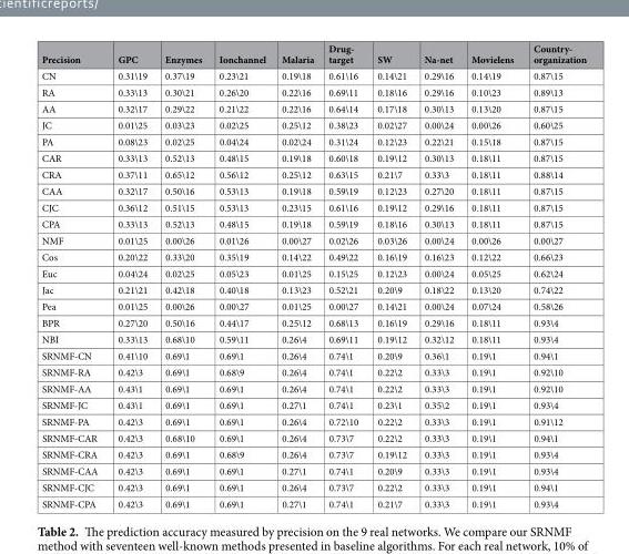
<table><thead><tr><td>Precision</td><td>GPC</td><td>Enzymes</td><td>Ionchannel</td><td>Malaria</td><td>Drug- target</td><td>SW</td><td>Na-net</td><td>Movielens</td><td>Country- organization</td></tr></thead><tbody><tr><td>CN</td><td>0.31\19</td><td>0.37\19</td><td>0.23\21</td><td>0.19\18</td><td>0.61\16</td><td>0.14\21</td><td>0.29\16</td><td>0.14\19</td><td>0.87\15</td></tr><tr><td>RA</td><td>0.33\13</td><td>0.30\21</td><td>0.26\20</td><td>0.22\16</td><td>0.69\11</td><td>0.18\16</td><td>0.29\16</td><td>0.10\23</td><td>0.89\13</td></tr><tr><td>AA</td><td>0.32\17</td><td>0.29\22</td><td>0.21\22</td><td>0.22\16</td><td>0.64\14</td><td>0.17\18</td><td>0.30\13</td><td>0.13\20</td><td>0.87\15</td></tr><tr><td>JC</td><td>0.01\25</td><td>0.03\23</td><td>0.02\25</td><td>0.25\12</td><td>0.38\23</td><td>0.02\27</td><td>0.00\24</td><td>0.00\26</td><td>0.60\25</td></tr><tr><td>PA</td><td>0.08\23</td><td>0.02\25</td><td>0.04\24</td><td>0.02\24</td><td>0.31\24</td><td>0.12\23</td><td>0.22\21</td><td>0.15\18</td><td>0.87\15</td></tr><tr><td>CAR</td><td>0.33\13</td><td>0.52\13</td><td>0.48\15</td><td>0.19\18</td><td>0.60\18</td><td>0.19\12</td><td>0.30\13</td><td>0.18\11</td><td>0.87\15</td></tr><tr><td>CRA</td><td>0.37\11</td><td>0.65\12</td><td>0.56\12</td><td>0.25\12</td><td>0.63\15</td><td>0.21\7</td><td>0.33\3</td><td>0.18\11</td><td>0.88\14</td></tr><tr><td>CAA</td><td>0.32\17</td><td>0.50\16</td><td>0.53\13</td><td>0.19\18</td><td>0.59\19</td><td>0.12\23</td><td>0.27\20</td><td>0.18\11</td><td>0.87\15</td></tr><tr><td>CJC</td><td>0.36\12</td><td>0.51\15</td><td>0.53\13</td><td>0.23\15</td><td>0.61\16</td><td>0.19\12</td><td>0.29\16</td><td>0.18\11</td><td>0.87\15</td></tr><tr><td>CPA</td><td>0.33\13</td><td>0.52\13</td><td>0.48\15</td><td>0.19\18</td><td>0.59\19</td><td>0.18\16</td><td>0.30\13</td><td>0.18\11</td><td>0.87\15</td></tr><tr><td>NMF</td><td>0.01\25</td><td>0.00\26</td><td>0.01\26</td><td>0.00\27</td><td>0.02\26</td><td>0.03\26</td><td>0.00\24</td><td>0.00\26</td><td>0.00\27</td></tr><tr><td>Cos</td><td>0.20\22</td><td>0.33\20</td><td>0.35\19</td><td>0.14\22</td><td>0.49\22</td><td>0.16\19</td><td>0.16\23</td><td>0.12\22</td><td>0.66\23</td></tr><tr><td>Euc</td><td>0.04\24</td><td>0.02\25</td><td>0.05\23</td><td>0.01\25</td><td>0.15\25</td><td>0.12\23</td><td>0.00\24</td><td>0.05\25</td><td>0.62\24</td></tr><tr><td>Jac</td><td>0.21\21</td><td>0.42\18</td><td>0.40\18</td><td>0.13\23</td><td>0.52\21</td><td>0.20\9</td><td>0.18\22</td><td>0.13\20</td><td>0.74\22</td></tr><tr><td>Pea</td><td>0.01\25</td><td>0.00\26</td><td>0.00\27</td><td>0.01\25</td><td>0.00\27</td><td>0.14\21</td><td>0.00\24</td><td>0.07\24</td><td>0.58\26</td></tr><tr><td>BPR</td><td>0.27\20</td><td>0.50\16</td><td>0.44\17</td><td>0.25\12</td><td>0.68\13</td><td>0.16\19</td><td>0.29\16</td><td>0.18\11</td><td>0.93\4</td></tr><tr><td>NBI</td><td>0.33\13</td><td>0.68\10</td><td>0.59\11</td><td>0.26\4</td><td>0.69\11</td><td>0.19\12</td><td>0.32\12</td><td>0.18\11</td><td>0.93\4</td></tr><tr><td>SRNMF-CN</td><td>0.41\10</td><td>0.69\1</td><td>0.69\1</td><td>0.26\4</td><td>0.74\1</td><td>0.20\9</td><td>0.36\1</td><td>0.19\1</td><td>0.94\1</td></tr><tr><td>SRNMF-RA</td><td>0.42\3</td><td>0.69\1</td><td>0.68\9</td><td>0.26\4</td><td>0.74\1</td><td>0.22\2</td><td>0.33\3</td><td>0.19\1</td><td>0.92\10</td></tr><tr><td>SRNMF-AA</td><td>0.43\1</td><td>0.69\1</td><td>0.69\1</td><td>0.26\4</td><td>0.74\1</td><td>0.22\2</td><td>0.33\3</td><td>0.19\1</td><td>0.92\10</td></tr><tr><td>SRNMF-JC</td><td>0.43\1</td><td>0.69\1</td><td>0.69\1</td><td>0.27\1</td><td>0.74\1</td><td>0.23\1</td><td>0.35\2</td><td>0.19\1</td><td>0.93\4</td></tr><tr><td>SRNMF-PA</td><td>0.42\3</td><td>0.69\1</td><td>0.69\1</td><td>0.26\4</td><td>0.72\10</td><td>0.22\2</td><td>0.33\3</td><td>0.19\1</td><td>0.91\12</td></tr><tr><td>SRNMF-CAR</td><td>0.42\3</td><td>0.68\10</td><td>0.69\1</td><td>0.26\4</td><td>0.73\7</td><td>0.22\2</td><td>0.33\3</td><td>0.19\1</td><td>0.94\1</td></tr><tr><td>SRNMF-CRA</td><td>0.42\3</td><td>0.69\1</td><td>0.68\9</td><td>0.26\4</td><td>0.73\7</td><td>0.19\12</td><td>0.33\3</td><td>0.19\1</td><td>0.93\4</td></tr><tr><td>SRNMF-CAA</td><td>0.42\3</td><td>0.69\1</td><td>0.69\1</td><td>0.27\1</td><td>0.74\1</td><td>0.20\9</td><td>0.33\3</td><td>0.19\1</td><td>0.93\4</td></tr><tr><td>SRNMF-CJC</td><td>0.42\3</td><td>0.69\1</td><td>0.69\1</td><td>0.26\4</td><td>0.73\7</td><td>0.22\2</td><td>0.33\3</td><td>0.19\1</td><td>0.94\1</td></tr><tr><td>SRNMF-CPA</td><td>0.42\3</td><td>0.69\1</td><td>0.69\1</td><td>0.27\1</td><td>0.74\1</td><td>0.21\7</td><td>0.33\3</td><td>0.19\1</td><td>0.93\4</td></tr></tbody></table>